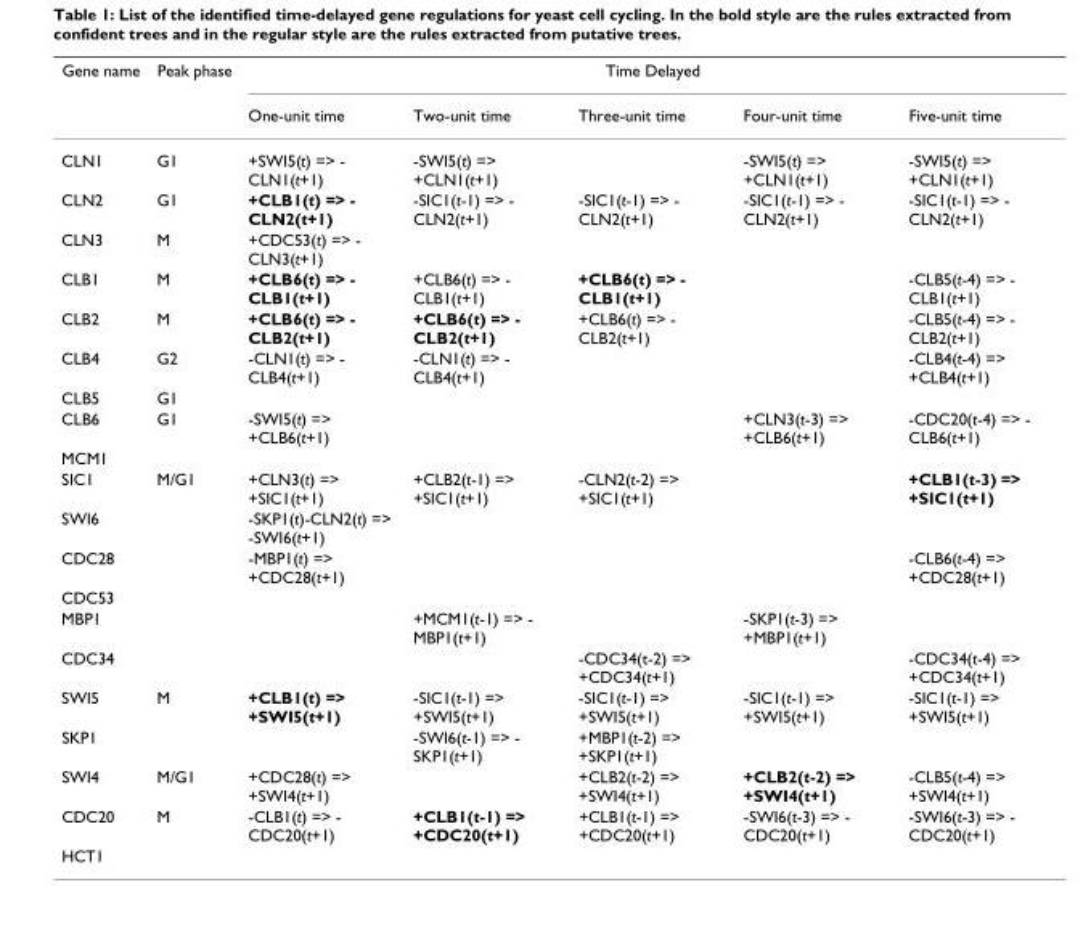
<table><thead><tr><td rowspan="2">Gene name</td><td rowspan="2">Peak phase</td><td colspan="5">Time Delayed</td></tr><tr><td>One-unit time</td><td>Two-unit time</td><td>Three-unit time</td><td>Four-unit time</td><td>Five-unit time</td></tr></thead><tbody><tr><td>CLN1</td><td>G1</td><td>+SWI5(t) =&gt; - CLN1(t+1)</td><td>-SWI5(t) =&gt; +CLN1(t+1)</td><td></td><td>-SWI5(t) =&gt; +CLN1(t+1)</td><td>-SWI5(t) =&gt; +CLN1(t+1)</td></tr><tr><td>CLN2</td><td>G1</td><td>+CLB1(t) =&gt; - CLN2(t+1)</td><td>-SIC1(t-1) =&gt; - CLN2(t+1)</td><td>-SIC1(t-1) =&gt; - CLN2(t+1)</td><td>-SIC1(t-1) =&gt; - CLN2(t+1)</td><td>-SIC1(t-1) =&gt; - CLN2(t+1)</td></tr><tr><td>CLN3</td><td>M</td><td>+CDC53(t) =&gt; - CLN3(t+1)</td><td></td><td></td><td></td><td></td></tr><tr><td>CLB1</td><td>M</td><td>+CLB6(t) =&gt; - CLB1(t+1)</td><td>+CLB6(t) =&gt; - CLB1(t+1)</td><td>+CLB6(t) =&gt; - CLB1(t+1)</td><td></td><td>-CLB5(t-4) =&gt; - CLB1(t+1)</td></tr><tr><td>CLB2</td><td>M</td><td>+CLB6(t) =&gt; - CLB2(t+1)</td><td>+CLB6(t) =&gt; - CLB2(t+1)</td><td>+CLB6(t) =&gt; - CLB2(t+1)</td><td></td><td>-CLB5(t-4) =&gt; - CLB2(t+1)</td></tr><tr><td>CLB4</td><td>G2</td><td>-CLN1(t) =&gt; - CLB4(t+1)</td><td>-CLN1(t) =&gt; - CLB4(t+1)</td><td></td><td></td><td>-CLB4(t-4) =&gt; +CLB4(t+1)</td></tr><tr><td>CLB5</td><td>G1</td><td></td><td></td><td></td><td></td><td></td></tr><tr><td>CLB6</td><td>G1</td><td>-SWI5(t) =&gt; +CLB6(t+1)</td><td></td><td></td><td>+CLN3(t-3) =&gt; +CLB6(t+1)</td><td>-CDC20(t-4) =&gt; - CLB6(t+1)</td></tr><tr><td colspan="7">MCM1</td></tr><tr><td>SIC1</td><td>M/G1</td><td>+CLN3(t) =&gt; +SIC1(t+1)</td><td>+CLB2(t-1) =&gt; +SIC1(t+1)</td><td>-CLN2(t-2) =&gt; +SIC1(t+1)</td><td></td><td>+CLB1(t-3) =&gt; +SIC1(t+1)</td></tr><tr><td>SWI6</td><td></td><td>-SKP1(t)-CLN2(t) =&gt; -SWI6(t+1)</td><td></td><td></td><td></td><td></td></tr><tr><td>CDC28</td><td></td><td>-MBP1(t) =&gt; +CDC28(t+1)</td><td></td><td></td><td></td><td>-CLB6(t-4) =&gt; +CDC28(t+1)</td></tr><tr><td colspan="7">CDC53</td></tr><tr><td>MBP1</td><td></td><td></td><td>+MCM1(t-1) =&gt; - MBP1(t+1)</td><td></td><td>-SKP1(t-3) =&gt; +MBP1(t+1)</td><td></td></tr><tr><td>CDC34</td><td></td><td></td><td></td><td>-CDC34(t-2) =&gt; +CDC34(t+1)</td><td></td><td>-CDC34(t-4) =&gt; +CDC34(t+1)</td></tr><tr><td>SWI5</td><td>M</td><td>+CLB1(t) =&gt; +SWI5(t+1)</td><td>-SIC1(t-1) =&gt; +SWI5(t+1)</td><td>-SIC1(t-1) =&gt; +SWI5(t+1)</td><td>-SIC1(t-1) =&gt; +SWI5(t+1)</td><td>-SIC1(t-1) =&gt; +SWI5(t+1)</td></tr><tr><td>SKP1</td><td></td><td></td><td>-SWI6(t-1) =&gt; - SKP1(t+1)</td><td>+MBP1(t-2) =&gt; +SKP1(t+1)</td><td></td><td></td></tr><tr><td>SWI4</td><td>M/G1</td><td>+CDC28(t) =&gt; +SWI4(t+1)</td><td></td><td>+CLB2(t-2) =&gt; +SWI4(t+1)</td><td>+CLB2(t-2) =&gt; +SWI4(t+1)</td><td>-CLB5(t-4) =&gt; +SWI4(t+1)</td></tr><tr><td>CDC20</td><td>M</td><td>-CLB1(t) =&gt; - CDC20(t+1)</td><td>+CLB1(t-1) =&gt; +CDC20(t+1)</td><td>+CLB1(t-1) =&gt; +CDC20(t+1)</td><td>-SWI6(t-3) =&gt; - CDC20(t+1)</td><td>-SWI6(t-3) =&gt; - CDC20(t+1)</td></tr><tr><td>HCT1</td><td></td><td></td><td></td><td></td><td></td><td></td></tr></tbody></table>